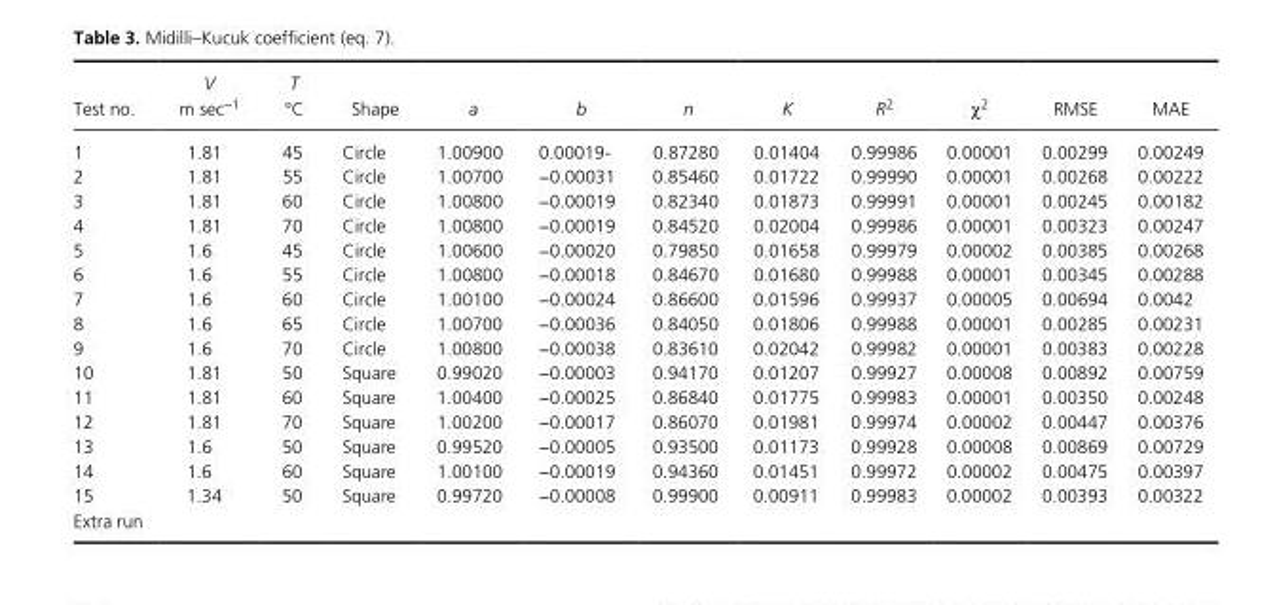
<table><thead><tr><td>Test no.</td><td>V m sec<sup>−1</sup></td><td>T °C</td><td>Shape</td><td>a</td><td>b</td><td>n</td><td>K</td><td>R<sup>2</sup></td><td>χ<sup>2</sup></td><td>RMSE</td><td>MAE</td></tr></thead><tbody><tr><td>1</td><td>1.81</td><td>45</td><td>Circle</td><td>1.00900</td><td>0.00019-</td><td>0.87280</td><td>0.01404</td><td>0.99986</td><td>0.00001</td><td>0.00299</td><td>0.00249</td></tr><tr><td>2</td><td>1.81</td><td>55</td><td>Circle</td><td>1.00700</td><td>−0.00031</td><td>0.85460</td><td>0.01722</td><td>0.99990</td><td>0.00001</td><td>0.00268</td><td>0.00222</td></tr><tr><td>3</td><td>1.81</td><td>60</td><td>Circle</td><td>1.00800</td><td>−0.00019</td><td>0.82340</td><td>0.01873</td><td>0.99991</td><td>0.00001</td><td>0.00245</td><td>0.00182</td></tr><tr><td>4</td><td>1.81</td><td>70</td><td>Circle</td><td>1.00800</td><td>−0.00019</td><td>0.84520</td><td>0.02004</td><td>0.99986</td><td>0.00001</td><td>0.00323</td><td>0.00247</td></tr><tr><td>5</td><td>1.6</td><td>45</td><td>Circle</td><td>1.00600</td><td>−0.00020</td><td>0.79850</td><td>0.01658</td><td>0.99979</td><td>0.00002</td><td>0.00385</td><td>0.00268</td></tr><tr><td>6</td><td>1.6</td><td>55</td><td>Circle</td><td>1.00800</td><td>−0.00018</td><td>0.84670</td><td>0.01680</td><td>0.99988</td><td>0.00001</td><td>0.00345</td><td>0.00288</td></tr><tr><td>7</td><td>1.6</td><td>60</td><td>Circle</td><td>1.00100</td><td>−0.00024</td><td>0.86600</td><td>0.01596</td><td>0.99937</td><td>0.00005</td><td>0.00694</td><td>0.0042</td></tr><tr><td>8</td><td>1.6</td><td>65</td><td>Circle</td><td>1.00700</td><td>−0.00036</td><td>0.84050</td><td>0.01806</td><td>0.99988</td><td>0.00001</td><td>0.00285</td><td>0.00231</td></tr><tr><td>9</td><td>1.6</td><td>70</td><td>Circle</td><td>1.00800</td><td>−0.00038</td><td>0.83610</td><td>0.02042</td><td>0.99982</td><td>0.00001</td><td>0.00383</td><td>0.00228</td></tr><tr><td>10</td><td>1.81</td><td>50</td><td>Square</td><td>0.99020</td><td>−0.00003</td><td>0.94170</td><td>0.01207</td><td>0.99927</td><td>0.00008</td><td>0.00892</td><td>0.00759</td></tr><tr><td>11</td><td>1.81</td><td>60</td><td>Square</td><td>1.00400</td><td>−0.00025</td><td>0.86840</td><td>0.01775</td><td>0.99983</td><td>0.00001</td><td>0.00350</td><td>0.00248</td></tr><tr><td>12</td><td>1.81</td><td>70</td><td>Square</td><td>1.00200</td><td>−0.00017</td><td>0.86070</td><td>0.01981</td><td>0.99974</td><td>0.00002</td><td>0.00447</td><td>0.00376</td></tr><tr><td>13</td><td>1.6</td><td>50</td><td>Square</td><td>0.99520</td><td>−0.00005</td><td>0.93500</td><td>0.01173</td><td>0.99928</td><td>0.00008</td><td>0.00869</td><td>0.00729</td></tr><tr><td>14</td><td>1.6</td><td>60</td><td>Square</td><td>1.00100</td><td>−0.00019</td><td>0.94360</td><td>0.01451</td><td>0.99972</td><td>0.00002</td><td>0.00475</td><td>0.00397</td></tr><tr><td>15 Extra run</td><td>1.34</td><td>50</td><td>Square</td><td>0.99720</td><td>−0.00008</td><td>0.99900</td><td>0.00911</td><td>0.99983</td><td>0.00002</td><td>0.00393</td><td>0.00322</td></tr></tbody></table>